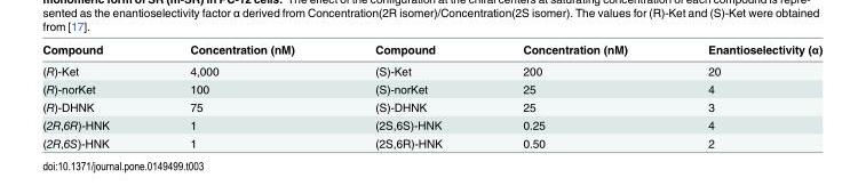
<table><thead><tr><td>Compound</td><td>Concentration (nM)</td><td>Compound</td><td>Concentration (nM)</td><td>Enantioselectivity (α)</td></tr></thead><tbody><tr><td>(R)-Ket</td><td>4,000</td><td>(S)-Ket</td><td>200</td><td>20</td></tr><tr><td>(R)-norKet</td><td>100</td><td>(S)-norKet</td><td>25</td><td>4</td></tr><tr><td>(R)-DHNK</td><td>75</td><td>(S)-DHNK</td><td>25</td><td>3</td></tr><tr><td>(2R,6R)-HNK</td><td>1</td><td>(2S,6S)-HNK</td><td>0.25</td><td>4</td></tr><tr><td>(2R,6S)-HNK</td><td>1</td><td>(2S,6R)-HNK</td><td>0.50</td><td>2</td></tr></tbody></table>